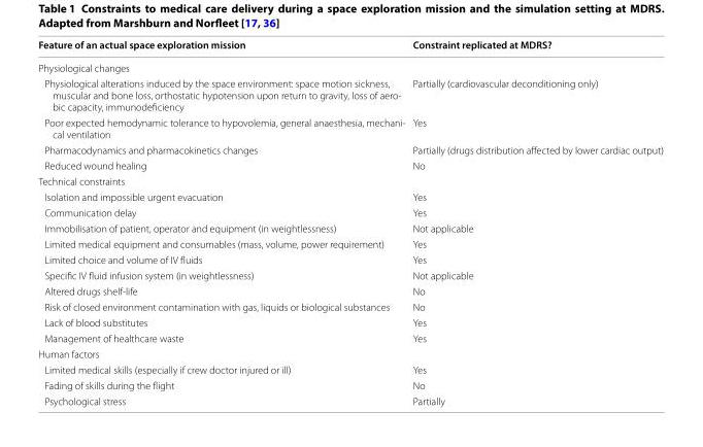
<table><thead><tr><td>Feature of an actual space exploration mission</td><td>Constraint replicated at MDRS?</td></tr></thead><tbody><tr><td colspan="2">Physiological changes</td></tr><tr><td>Physiological alterations induced by the space environment: space motion sickness, muscular and bone loss, orthostatic hypotension upon return to gravity, loss of aero- bic capacity, immunodeficiency</td><td>Partially (cardiovascular deconditioning only)</td></tr><tr><td>Poor expected hemodynamic tolerance to hypovolemia, general anaesthesia, mechani- cal ventilation</td><td>Yes</td></tr><tr><td>Pharmacodynamics and pharmacokinetics changes</td><td>Partially (drugs distribution affected by lower cardiac output)</td></tr><tr><td>Reduced wound healing</td><td>No</td></tr><tr><td colspan="2">Technical constraints</td></tr><tr><td>Isolation and impossible urgent evacuation</td><td>Yes</td></tr><tr><td>Communication delay</td><td>Yes</td></tr><tr><td>Immobilisation of patient, operator and equipment (in weightlessness)</td><td>Not applicable</td></tr><tr><td>Limited medical equipment and consumables (mass, volume, power requirement)</td><td>Yes</td></tr><tr><td>Limited choice and volume of IV fluids</td><td>Yes</td></tr><tr><td>Specific IV fluid infusion system (in weightlessness)</td><td>Not applicable</td></tr><tr><td>Altered drugs shelf-life</td><td>No</td></tr><tr><td>Risk of closed environment contamination with gas, liquids or biological substances</td><td>No</td></tr><tr><td>Lack of blood substitutes</td><td>Yes</td></tr><tr><td>Management of healthcare waste</td><td>Yes</td></tr><tr><td colspan="2">Human factors</td></tr><tr><td>Limited medical skills (especially if crew doctor injured or ill)</td><td>Yes</td></tr><tr><td>Fading of skills during the flight</td><td>No</td></tr><tr><td>Psychological stress</td><td>Partially</td></tr></tbody></table>